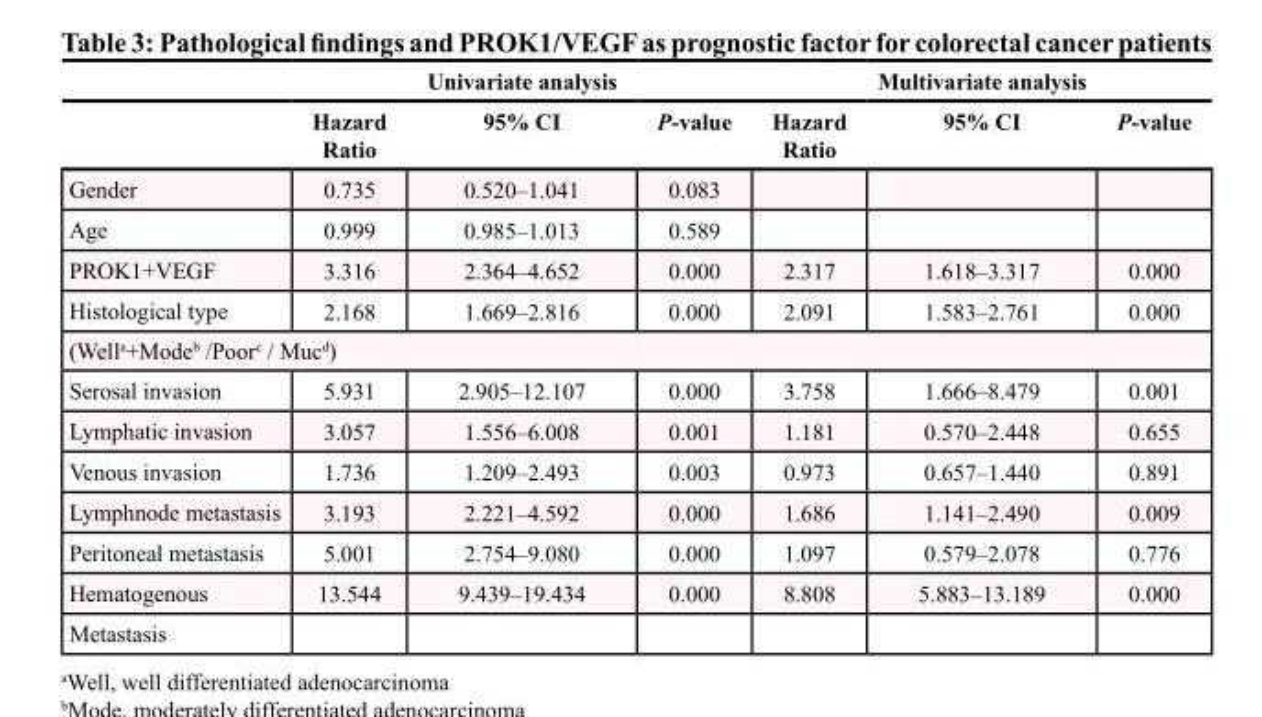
<table><thead><tr><td rowspan="2"></td><td colspan="3">Univariate analysis</td><td colspan="3">Multivariate analysis</td></tr><tr><td>Hazard Ratio</td><td>95% CI</td><td>P-value</td><td>Hazard Ratio</td><td>95% CI</td><td>P-value</td></tr></thead><tbody><tr><td>Gender</td><td>0.735</td><td>0.520–1.041</td><td>0.083</td><td></td><td></td><td></td></tr><tr><td>Age</td><td>0.999</td><td>0.985–1.013</td><td>0.589</td><td></td><td></td><td></td></tr><tr><td>PROK1+VEGF</td><td>3.316</td><td>2.364–4.652</td><td>0.000</td><td>2.317</td><td>1.618–3.317</td><td>0.000</td></tr><tr><td>Histological type</td><td>2.168</td><td>1.669–2.816</td><td>0.000</td><td>2.091</td><td>1.583–2.761</td><td>0.000</td></tr><tr><td colspan="7">(Well<sup>a</sup>+Mode<sup>b</sup> /Poor<sup>c</sup> / Muc<sup>d</sup>)</td></tr><tr><td>Serosal invasion</td><td>5.931</td><td>2.905–12.107</td><td>0.000</td><td>3.758</td><td>1.666–8.479</td><td>0.001</td></tr><tr><td>Lymphatic invasion</td><td>3.057</td><td>1.556–6.008</td><td>0.001</td><td>1.181</td><td>0.570–2.448</td><td>0.655</td></tr><tr><td>Venous invasion</td><td>1.736</td><td>1.209–2.493</td><td>0.003</td><td>0.973</td><td>0.657–1.440</td><td>0.891</td></tr><tr><td>Lymphnode metastasis</td><td>3.193</td><td>2.221–4.592</td><td>0.000</td><td>1.686</td><td>1.141–2.490</td><td>0.009</td></tr><tr><td>Peritoneal metastasis</td><td>5.001</td><td>2.754–9.080</td><td>0.000</td><td>1.097</td><td>0.579–2.078</td><td>0.776</td></tr><tr><td>Hematogenous</td><td>13.544</td><td>9.439–19.434</td><td>0.000</td><td>8.808</td><td>5.883–13.189</td><td>0.000</td></tr><tr><td>Metastasis</td><td></td><td></td><td></td><td></td><td></td><td></td></tr></tbody></table>